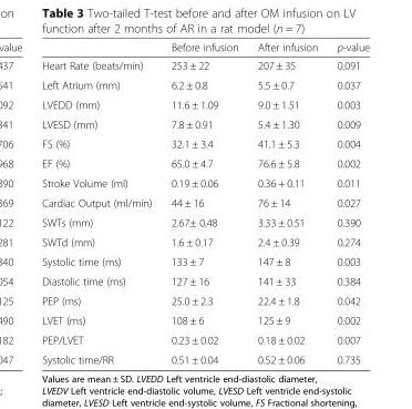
<table><thead><tr><td></td><td>Before infusion</td><td>After infusion</td><td>p-value</td></tr></thead><tbody><tr><td>Heart Rate (beats/min)</td><td>253 ± 22</td><td>207 ± 35</td><td>0.091</td></tr><tr><td>Left Atrium (mm)</td><td>6.2 ± 0.8</td><td>5.5 ± 0.7</td><td>0.037</td></tr><tr><td>LVEDD (mm)</td><td>11.6 ± 1.09</td><td>9.0 ± 1.51</td><td>0.003</td></tr><tr><td>LVESD (mm)</td><td>7.8 ± 0.91</td><td>5.4 ± 1.30</td><td>0.009</td></tr><tr><td>FS (%)</td><td>32.1 ± 3.4</td><td>41.1 ± 5.3</td><td>0.004</td></tr><tr><td>EF (%)</td><td>65.0 ± 4.7</td><td>76.6 ± 5.8</td><td>0.002</td></tr><tr><td>Stroke Volume (ml)</td><td>0.19 ± 0.06</td><td>0.36 + 0.11</td><td>0.011</td></tr><tr><td>Cardiac Output (ml/min)</td><td>44 ± 16</td><td>76 ± 14</td><td>0.027</td></tr><tr><td>SWTs (mm)</td><td>2.67± 0.48</td><td>3.33 ± 0.51</td><td>0.390</td></tr><tr><td>SWTd (mm)</td><td>1.6 ± 0.17</td><td>2.4 ± 0.39</td><td>0.274</td></tr><tr><td>Systolic time (ms)</td><td>133 ± 7</td><td>147 ± 8</td><td>0.003</td></tr><tr><td>Diastolic time (ms)</td><td>127 ± 16</td><td>141 ± 33</td><td>0.384</td></tr><tr><td>PEP (ms)</td><td>25.0 ± 2.3</td><td>22.4 ± 1.8</td><td>0.042</td></tr><tr><td>LVET (ms)</td><td>108 ± 6</td><td>125 ± 9</td><td>0.002</td></tr><tr><td>PEP/LVET</td><td>0.23 ± 0.02</td><td>0.18 ± 0.02</td><td>0.007</td></tr><tr><td>Systolic time/RR</td><td>0.51 ± 0.04</td><td>0.52 ± 0.06</td><td>0.735</td></tr></tbody></table>